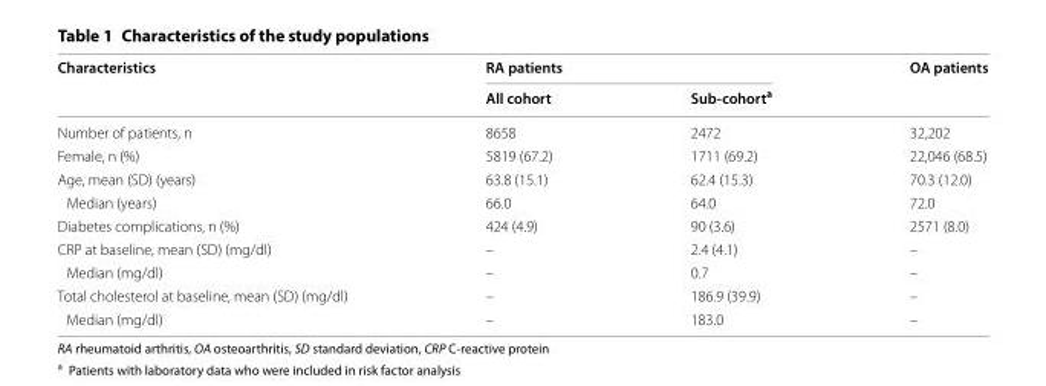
<table><thead><tr><td rowspan="2">Characteristics</td><td colspan="2">RA patients</td><td rowspan="2">OA patients</td></tr><tr><td>All cohort</td><td>Sub-cohort<sup>a</sup></td></tr></thead><tbody><tr><td>Number of patients, n</td><td>8658</td><td>2472</td><td>32,202</td></tr><tr><td>Female, n (%)</td><td>5819 (67.2)</td><td>1711 (69.2)</td><td>22,046 (68.5)</td></tr><tr><td>Age, mean (SD) (years)</td><td>63.8 (15.1)</td><td>62.4 (15.3)</td><td>70.3 (12.0)</td></tr><tr><td>Median (years)</td><td>66.0</td><td>64.0</td><td>72.0</td></tr><tr><td>Diabetes complications, n (%)</td><td>424 (4.9)</td><td>90 (3.6)</td><td>2571 (8.0)</td></tr><tr><td>CRP at baseline, mean (SD) (mg/dl)</td><td>–</td><td>2.4 (4.1)</td><td>–</td></tr><tr><td>Median (mg/dl)</td><td>–</td><td>0.7</td><td>–</td></tr><tr><td>Total cholesterol at baseline, mean (SD) (mg/dl)</td><td>–</td><td>186.9 (39.9)</td><td>–</td></tr><tr><td>Median (mg/dl)</td><td>–</td><td>183.0</td><td>–</td></tr></tbody></table>